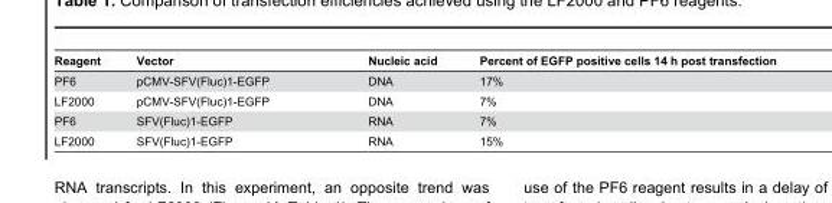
<table><thead><tr><td>Reagent</td><td>Vector</td><td>Nucleic acid</td><td>Percent of EGFP positive cells 14 h post transfection</td></tr></thead><tbody><tr><td>PF6</td><td>pCMV-SFV(Fluc)1-EGFP</td><td>DNA</td><td>17%</td></tr><tr><td>LF2000</td><td>pCMV-SFV(Fluc)1-EGFP</td><td>DNA</td><td>7%</td></tr><tr><td>PF6</td><td>SFV(Fluc)1-EGFP</td><td>RNA</td><td>7%</td></tr><tr><td>LF2000</td><td>SFV(Fluc)1-EGFP</td><td>RNA</td><td>15%</td></tr></tbody></table>